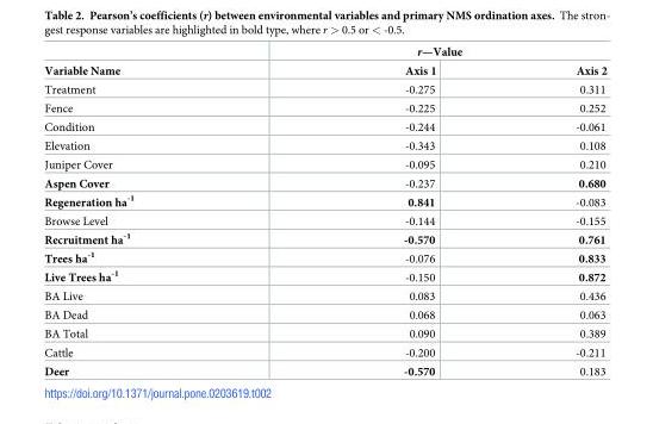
<table><thead><tr><td rowspan="2">Variable Name</td><td colspan="2">r—Value</td></tr><tr><td>Axis 1</td><td>Axis 2</td></tr></thead><tbody><tr><td>Treatment</td><td>-0.275</td><td>0.311</td></tr><tr><td>Fence</td><td>-0.225</td><td>0.252</td></tr><tr><td>Condition</td><td>-0.244</td><td>-0.061</td></tr><tr><td>Elevation</td><td>-0.343</td><td>0.108</td></tr><tr><td>Juniper Cover</td><td>-0.095</td><td>0.210</td></tr><tr><td>Aspen Cover</td><td>-0.237</td><td>0.680</td></tr><tr><td>Regeneration ha<sup>-1</sup></td><td>0.841</td><td>-0.083</td></tr><tr><td>Browse Level</td><td>-0.144</td><td>-0.155</td></tr><tr><td>Recruitment ha<sup>-1</sup></td><td>-0.570</td><td>0.761</td></tr><tr><td>Trees ha<sup>-1</sup></td><td>-0.076</td><td>0.833</td></tr><tr><td>Live Trees ha<sup>-1</sup></td><td>-0.150</td><td>0.872</td></tr><tr><td>BA Live</td><td>0.083</td><td>0.436</td></tr><tr><td>BA Dead</td><td>0.068</td><td>0.063</td></tr><tr><td>BA Total</td><td>0.090</td><td>0.389</td></tr><tr><td>Cattle</td><td>-0.200</td><td>-0.211</td></tr><tr><td>Deer</td><td>-0.570</td><td>0.183</td></tr></tbody></table>